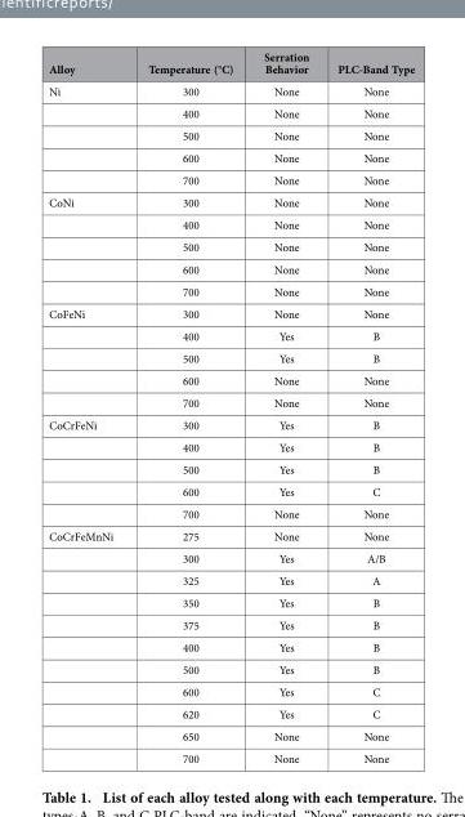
<table><thead><tr><td>Alloy</td><td>Temperature (°C)</td><td>Serration Behavior</td><td>PLC-Band Type</td></tr></thead><tbody><tr><td rowspan="5">Ni</td><td>300</td><td>None</td><td>None</td></tr><tr><td>400</td><td>None</td><td>None</td></tr><tr><td>500</td><td>None</td><td>None</td></tr><tr><td>600</td><td>None</td><td>None</td></tr><tr><td>700</td><td>None</td><td>None</td></tr><tr><td rowspan="5">CoNi</td><td>300</td><td>None</td><td>None</td></tr><tr><td>400</td><td>None</td><td>None</td></tr><tr><td>500</td><td>None</td><td>None</td></tr><tr><td>600</td><td>None</td><td>None</td></tr><tr><td>700</td><td>None</td><td>None</td></tr><tr><td rowspan="5">CoFeNi</td><td>300</td><td>None</td><td>None</td></tr><tr><td>400</td><td>Yes</td><td>B</td></tr><tr><td>500</td><td>Yes</td><td>B</td></tr><tr><td>600</td><td>None</td><td>None</td></tr><tr><td>700</td><td>None</td><td>None</td></tr><tr><td rowspan="5">CoCrFeNi</td><td>300</td><td>Yes</td><td>B</td></tr><tr><td>400</td><td>Yes</td><td>B</td></tr><tr><td>500</td><td>Yes</td><td>B</td></tr><tr><td>600</td><td>Yes</td><td>C</td></tr><tr><td>700</td><td>None</td><td>None</td></tr><tr><td rowspan="11">CoCrFeMnNi</td><td>275</td><td>None</td><td>None</td></tr><tr><td>300</td><td>Yes</td><td>A/B</td></tr><tr><td>325</td><td>Yes</td><td>A</td></tr><tr><td>350</td><td>Yes</td><td>B</td></tr><tr><td>375</td><td>Yes</td><td>B</td></tr><tr><td>400</td><td>Yes</td><td>B</td></tr><tr><td>500</td><td>Yes</td><td>B</td></tr><tr><td>600</td><td>Yes</td><td>C</td></tr><tr><td>620</td><td>Yes</td><td>C</td></tr><tr><td>650</td><td>None</td><td>None</td></tr><tr><td>700</td><td>None</td><td>None</td></tr></tbody></table>